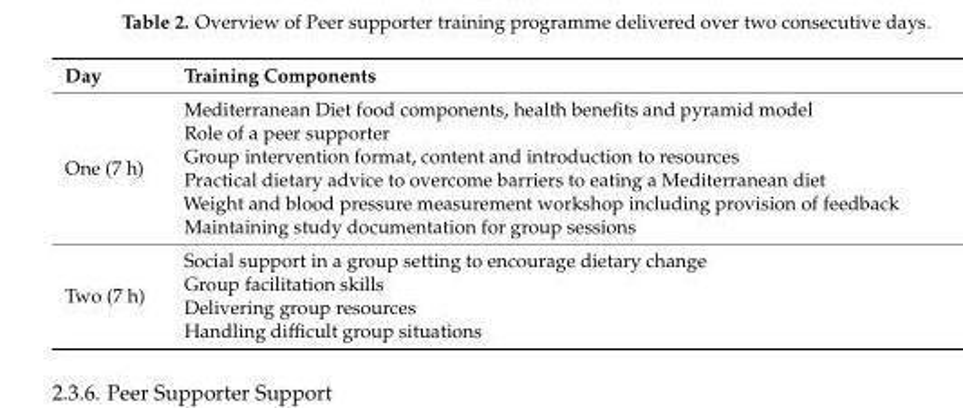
<table><thead><tr><td>Day</td><td>Training Components</td></tr></thead><tbody><tr><td>One (7 h)</td><td>Mediterranean Diet food components, health benefits and pyramid model Role of a peer supporter Group intervention format, content and introduction to resources Practical dietary advice to overcome barriers to eating a Mediterranean diet Weight and blood pressure measurement workshop including provision of feedback Maintaining study documentation for group sessions</td></tr><tr><td>Two (7 h)</td><td>Social support in a group setting to encourage dietary change Group facilitation skills Delivering group resources Handling difficult group situations</td></tr></tbody></table>